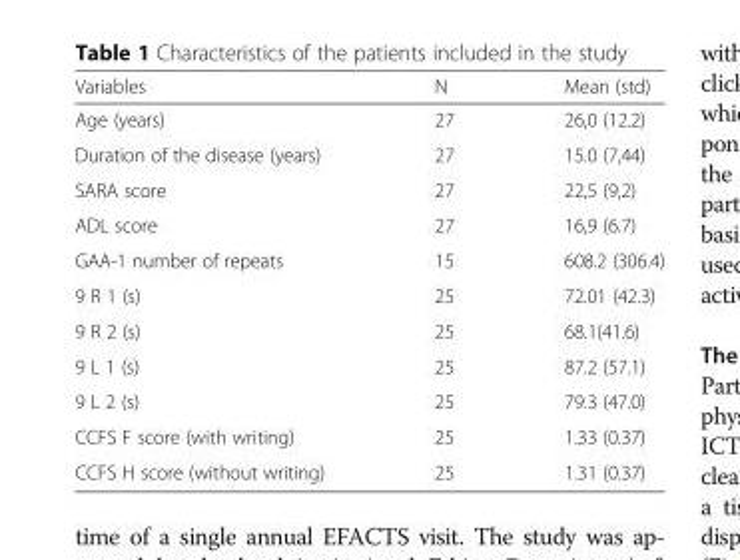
<table><thead><tr><td>Variables</td><td>N</td><td>Mean (std)</td></tr></thead><tbody><tr><td>Age (years)</td><td>27</td><td>26,0 (12.2)</td></tr><tr><td>Duration of the disease (years)</td><td>27</td><td>15.0 (7,44)</td></tr><tr><td>SARA score</td><td>27</td><td>22,5 (9,2)</td></tr><tr><td>ADL score</td><td>27</td><td>16,9 (6.7)</td></tr><tr><td>GAA-1 number of repeats</td><td>15</td><td>608.2 (306.4)</td></tr><tr><td>9 R 1 (s)</td><td>25</td><td>72.01 (42.3)</td></tr><tr><td>9 R 2 (s)</td><td>25</td><td>68.1(41.6)</td></tr><tr><td>9 L 1 (s)</td><td>25</td><td>87.2 (57.1)</td></tr><tr><td>9 L 2 (s)</td><td>25</td><td>79.3 (47.0)</td></tr><tr><td>CCFS F score (with writing)</td><td>25</td><td>1.33 (0.37)</td></tr><tr><td>CCFS H score (without writing)</td><td>25</td><td>1.31 (0.37)</td></tr></tbody></table>